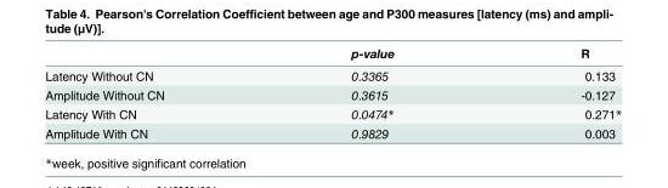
<table><thead><tr><td></td><td>p-value</td><td>R</td></tr></thead><tbody><tr><td>Latency Without CN</td><td>0.3365</td><td>0.133</td></tr><tr><td>Amplitude Without CN</td><td>0.3615</td><td>-0.127</td></tr><tr><td>Latency With CN</td><td>0.0474*</td><td>0.271*</td></tr><tr><td>Amplitude With CN</td><td>0.9829</td><td>0.003</td></tr></tbody></table>